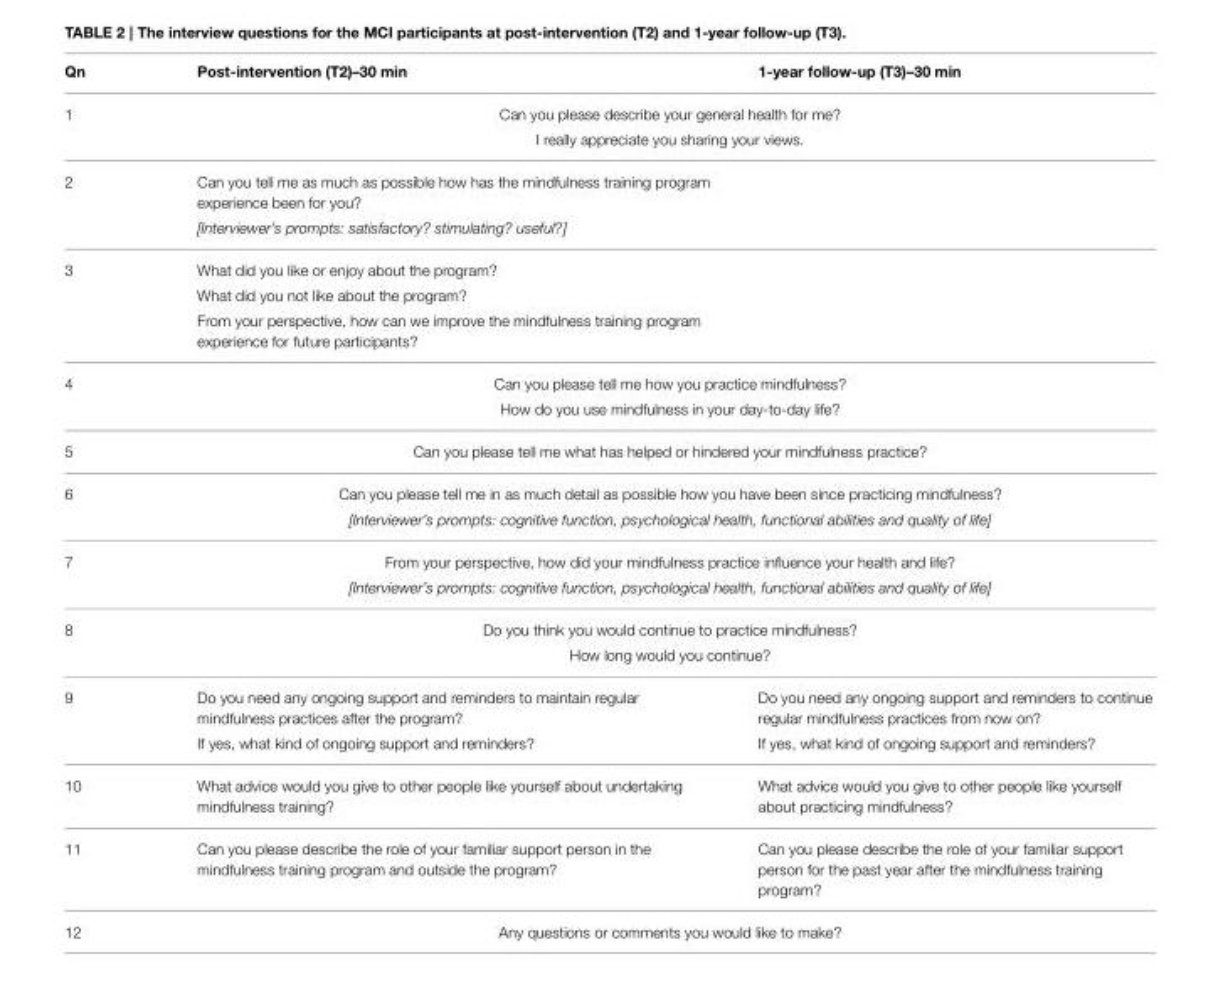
<table><thead><tr><td>Qn</td><td>Post-intervention (T2)–30 min</td><td>1-year follow-up (T3)–30 min</td></tr></thead><tbody><tr><td rowspan="2">1</td><td colspan="2">Can you please describe your general health for me?</td></tr><tr><td colspan="2">I really appreciate you sharing your views.</td></tr><tr><td rowspan="2">2</td><td>Can you tell me as much as possible how has the mindfulness training program experience been for you?</td><td></td></tr><tr><td>[Interviewer’s prompts: satisfactory? stimulating? useful?]</td><td></td></tr><tr><td rowspan="3">3</td><td>What did you like or enjoy about the program?</td><td></td></tr><tr><td>What did you not like about the program?</td><td></td></tr><tr><td>From your perspective, how can we improve the mindfulness training program experience for future participants?</td><td></td></tr><tr><td rowspan="2">4</td><td colspan="2">Can you please tell me how you practice mindfulness?</td></tr><tr><td colspan="2">How do you use mindfulness in your day-to-day life?</td></tr><tr><td>5</td><td colspan="2">Can you please tell me what has helped or hindered your mindfulness practice?</td></tr><tr><td rowspan="2">6</td><td colspan="2">Can you please tell me in as much detail as possible how you have been since practicing mindfulness?</td></tr><tr><td colspan="2">[Interviewer’s prompts: cognitive function, psychological health, functional abilities and quality of life]</td></tr><tr><td rowspan="2">7</td><td colspan="2">From your perspective, how did your mindfulness practice influence your health and life?</td></tr><tr><td colspan="2">[Interviewer’s prompts: cognitive function, psychological health, functional abilities and quality of life]</td></tr><tr><td rowspan="2">8</td><td colspan="2">Do you think you would continue to practice mindfulness?</td></tr><tr><td colspan="2">How long would you continue?</td></tr><tr><td rowspan="2">9</td><td>Do you need any ongoing support and reminders to maintain regular mindfulness practices after the program?</td><td>Do you need any ongoing support and reminders to continue regular mindfulness practices from now on?</td></tr><tr><td>If yes, what kind of ongoing support and reminders?</td><td>If yes, what kind of ongoing support and reminders?</td></tr><tr><td>10</td><td>What advice would you give to other people like yourself about undertaking mindfulness training?</td><td>What advice would you give to other people like yourself about practicing mindfulness?</td></tr><tr><td>11</td><td>Can you please describe the role of your familiar support person in the mindfulness training program and outside the program?</td><td>Can you please describe the role of your familiar support person for the past year after the mindfulness training program?</td></tr><tr><td>12</td><td colspan="2">Any questions or comments you would like to make?</td></tr></tbody></table>